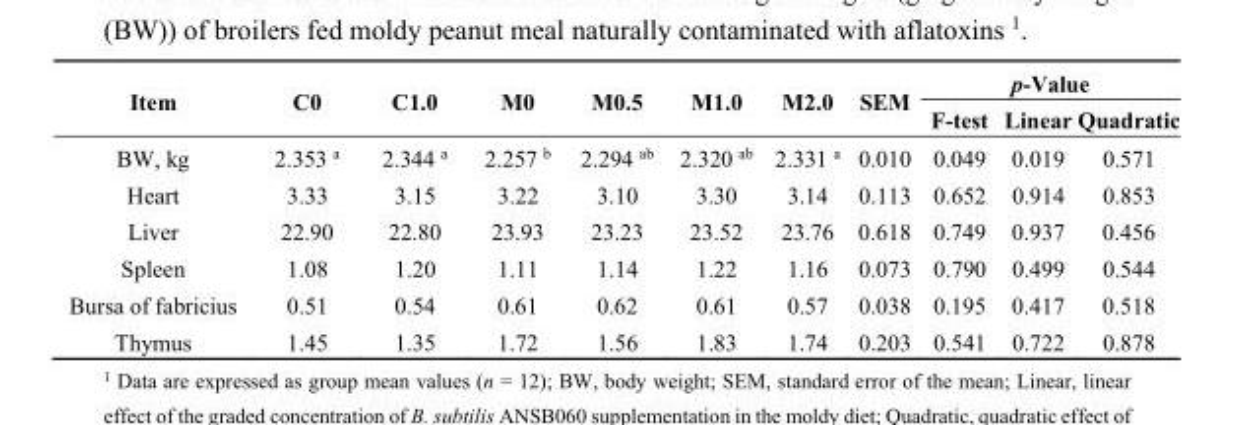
<table><thead><tr><td rowspan="2">Item</td><td rowspan="2">C0</td><td rowspan="2">C1.0</td><td rowspan="2">M0</td><td rowspan="2">M0.5</td><td rowspan="2">M1.0</td><td rowspan="2">M2.0</td><td rowspan="2">SEM</td><td colspan="3">p-Value</td></tr><tr><td>F-test</td><td>Linear</td><td>Quadratic</td></tr></thead><tbody><tr><td>BW, kg</td><td>2.353 <sup>a</sup></td><td>2.344 <sup>a</sup></td><td>2.257 <sup>b</sup></td><td>2.294 <sup>ab</sup></td><td>2.320 <sup>ab</sup></td><td>2.331 <sup>a</sup></td><td>0.010</td><td>0.049</td><td>0.019</td><td>0.571</td></tr><tr><td>Heart</td><td>3.33</td><td>3.15</td><td>3.22</td><td>3.10</td><td>3.30</td><td>3.14</td><td>0.113</td><td>0.652</td><td>0.914</td><td>0.853</td></tr><tr><td>Liver</td><td>22.90</td><td>22.80</td><td>23.93</td><td>23.23</td><td>23.52</td><td>23.76</td><td>0.618</td><td>0.749</td><td>0.937</td><td>0.456</td></tr><tr><td>Spleen</td><td>1.08</td><td>1.20</td><td>1.11</td><td>1.14</td><td>1.22</td><td>1.16</td><td>0.073</td><td>0.790</td><td>0.499</td><td>0.544</td></tr><tr><td>Bursa of fabricius</td><td>0.51</td><td>0.54</td><td>0.61</td><td>0.62</td><td>0.61</td><td>0.57</td><td>0.038</td><td>0.195</td><td>0.417</td><td>0.518</td></tr><tr><td>Thymus</td><td>1.45</td><td>1.35</td><td>1.72</td><td>1.56</td><td>1.83</td><td>1.74</td><td>0.203</td><td>0.541</td><td>0.722</td><td>0.878</td></tr></tbody></table>